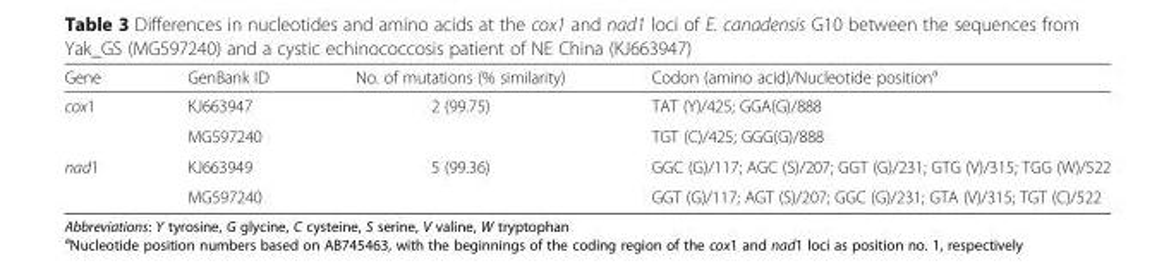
<table><thead><tr><td>Gene</td><td>GenBank ID</td><td>No. of mutations (% similarity)</td><td>Codon (amino acid)/Nucleotide position<sup>a</sup></td></tr></thead><tbody><tr><td rowspan="2">cox1</td><td>KJ663947</td><td rowspan="2">2 (99.75)</td><td>TAT (Y)/425; GGA(G)/888</td></tr><tr><td>MG597240</td><td>TGT (C)/425; GGG(G)/888</td></tr><tr><td rowspan="2">nad1</td><td>KJ663949</td><td rowspan="2">5 (99.36)</td><td>GGC (G)/117; AGC (S)/207; GGT (G)/231; GTG (V)/315; TGG (W)/522</td></tr><tr><td>MG597240</td><td>GGT (G)/117; AGT (S)/207; GGC (G)/231; GTA (V)/315; TGT (C)/522</td></tr></tbody></table>